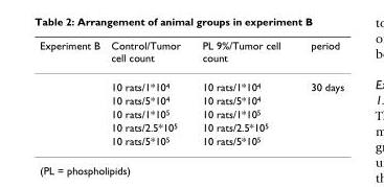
<table><thead><tr><td>Experiment B</td><td>Control/Tumor cell count</td><td>PL 9%/Tumor cell count</td><td>period</td></tr></thead><tbody><tr><td></td><td>10 rats/1*10<sup>4</sup></td><td>10 rats/1*10<sup>4</sup></td><td>30 days</td></tr><tr><td></td><td>10 rats/5*10<sup>4</sup></td><td>10 rats/5*10<sup>4</sup></td><td></td></tr><tr><td></td><td>10 rats/1*10<sup>5</sup></td><td>10 rats/1*10<sup>5</sup></td><td></td></tr><tr><td></td><td>10 rats/2.5*10<sup>5</sup></td><td>10 rats/2.5*10<sup>5</sup></td><td></td></tr><tr><td></td><td>10 rats/5*10<sup>5</sup></td><td>10 rats/5*10<sup>5</sup></td><td></td></tr></tbody></table>